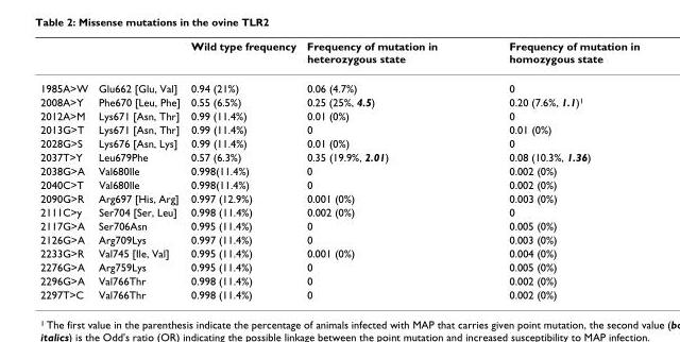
<table><thead><tr><td></td><td></td><td>Wild type frequency</td><td>Frequency of mutation in heterozygous state</td><td>Frequency of mutation in homozygous state</td></tr></thead><tbody><tr><td>1985A&gt;W</td><td>Glu662 [Glu, Val]</td><td>0.94 (21%)</td><td>0.06 (4.7%)</td><td>0</td></tr><tr><td>2008A&gt;Y</td><td>Phe670 [Leu, Phe]</td><td>0.55 (6.5%)</td><td>0.25 (25%, 4.5)</td><td>0.20 (7.6%, 1.1)<sup>1</sup></td></tr><tr><td>2012A&gt;M</td><td>Lys671 [Asn, Thr]</td><td>0.99 (11.4%)</td><td>0.01 (0%)</td><td>0</td></tr><tr><td>2013G&gt;T</td><td>Lys671 [Asn, Thr]</td><td>0.99 (11.4%)</td><td>0</td><td>0.01 (0%)</td></tr><tr><td>2028G&gt;S</td><td>Lys676 [Asn, Lys]</td><td>0.99 (11.4%)</td><td>0.01 (0%)</td><td>0</td></tr><tr><td>2037T&gt;Y</td><td>Leu679Phe</td><td>0.57 (6.3%)</td><td>0.35 (19.9%, 2.01)</td><td>0.08 (10.3%, 1.36)</td></tr><tr><td>2038G&gt;A</td><td>Val680Ile</td><td>0.998(11.4%)</td><td>0</td><td>0.002 (0%)</td></tr><tr><td>2040C&gt;T</td><td>Val680Ile</td><td>0.998(11.4%)</td><td>0</td><td>0.002 (0%)</td></tr><tr><td>2090G&gt;R</td><td>Arg697 [His, Arg]</td><td>0.997 (12.9%)</td><td>0.001 (0%)</td><td>0.003 (0%)</td></tr><tr><td>2111C&gt;y</td><td>Ser704 [Ser, Leu]</td><td>0.998 (11.4%)</td><td>0.002 (0%)</td><td>0</td></tr><tr><td>2117G&gt;A</td><td>Ser706Asn</td><td>0.995 (11.4%)</td><td>0</td><td>0.005 (0%)</td></tr><tr><td>2126G&gt;A</td><td>Arg709Lys</td><td>0.997 (11.4%)</td><td>0</td><td>0.003 (0%)</td></tr><tr><td>2233G&gt;R</td><td>Val745 [Ile, Val]</td><td>0.995 (11.4%)</td><td>0.001 (0%)</td><td>0.004 (0%)</td></tr><tr><td>2276G&gt;A</td><td>Arg759Lys</td><td>0.995 (11.4%)</td><td>0</td><td>0.005 (0%)</td></tr><tr><td>2296G&gt;A</td><td>Val766Thr</td><td>0.998 (11.4%)</td><td>0</td><td>0.002 (0%)</td></tr><tr><td>2297T&gt;C</td><td>Val766Thr</td><td>0.998 (11.4%)</td><td>0</td><td>0.002 (0%)</td></tr></tbody></table>